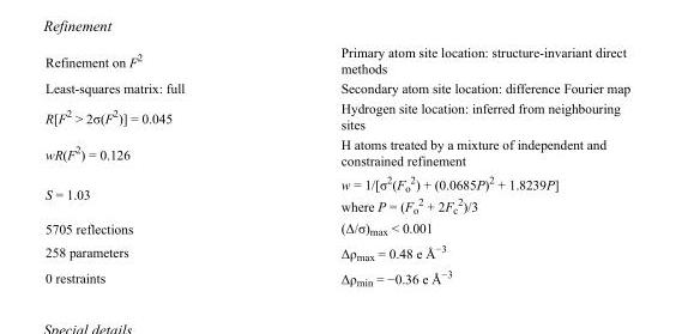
<table><tbody><tr><td>Refinement on F<sup>2</sup></td><td>Primary atom site location: structure-invariant direct methods</td></tr><tr><td>Least-squares matrix: full</td><td>Secondary atom site location: difference Fourier map</td></tr><tr><td>R[F<sup>2</sup> &gt; 2σ(F<sup>2</sup>)] = 0.045</td><td>Hydrogen site location: inferred from neighbouring sites</td></tr><tr><td>wR(F<sup>2</sup>) = 0.126</td><td>H atoms treated by a mixture of independent and constrained refinement</td></tr><tr><td>S = 1.03</td><td>w = 1/[σ<sup>2</sup>(F<sub>o</sub> <sup>2</sup>) + (0.0685P)<sup>2</sup> + 1.8239P] where P = (F<sub>o</sub> <sup>2</sup> + 2F<sub>c</sub> <sup>2</sup>)/3</td></tr><tr><td>5705 reflections</td><td>(Δ/σ)<sub>max</sub> &lt; 0.001</td></tr><tr><td>258 parameters</td><td>Δρ<sub>max</sub> = 0.48 e Å<sup>−3</sup></td></tr><tr><td>0 restraints</td><td>Δρ<sub>min</sub> = −0.36 e Å<sup>−3</sup></td></tr></tbody></table>